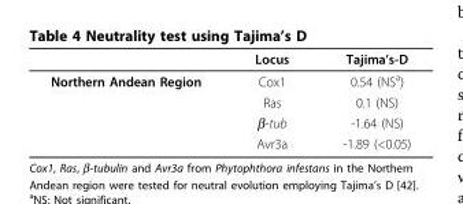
<table><thead><tr><td></td><td>Locus</td><td>Tajima’s-D</td></tr></thead><tbody><tr><td rowspan="4">Northern Andean Region</td><td>Cox1</td><td>0.54 (NS<sup>a</sup>)</td></tr><tr><td>Ras</td><td>0.1 (NS)</td></tr><tr><td>β-tub</td><td>-1.64 (NS)</td></tr><tr><td>Avr3a</td><td>-1.89 (&lt;0.05)</td></tr></tbody></table>